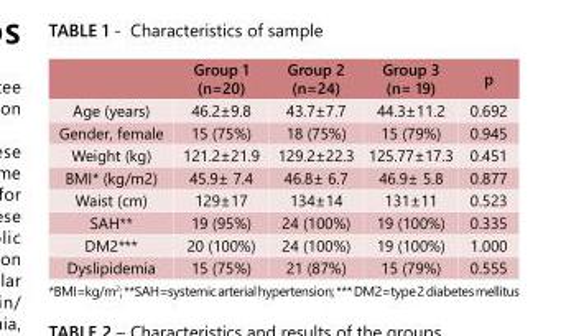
<table><thead><tr><td></td><td>Group 1 (n=20)</td><td>Group 2 (n=24)</td><td>Group 3 (n= 19)</td><td>p</td></tr></thead><tbody><tr><td>Age (years)</td><td>46.2±9.8</td><td>43.7±7.7</td><td>44.3±11.2</td><td>0.692</td></tr><tr><td>Gender, female</td><td>15 (75%)</td><td>18 (75%)</td><td>15 (79%)</td><td>0.945</td></tr><tr><td>Weight (kg)</td><td>121.2±21.9</td><td>129.2±22.3</td><td>125.77±17.3</td><td>0.451</td></tr><tr><td>BMI* (kg/m2)</td><td>45.9± 7.4</td><td>46.8± 6.7</td><td>46.9± 5.8</td><td>0.877</td></tr><tr><td>Waist (cm)</td><td>129±17</td><td>134±14</td><td>131±11</td><td>0.523</td></tr><tr><td>SAH**</td><td>19 (95%)</td><td>24 (100%)</td><td>19 (100%)</td><td>0.335</td></tr><tr><td>DM2***</td><td>20 (100%)</td><td>24 (100%)</td><td>19 (100%)</td><td>1.000</td></tr><tr><td>Dyslipidemia</td><td>15 (75%)</td><td>21 (87%)</td><td>15 (79%)</td><td>0.555</td></tr></tbody></table>